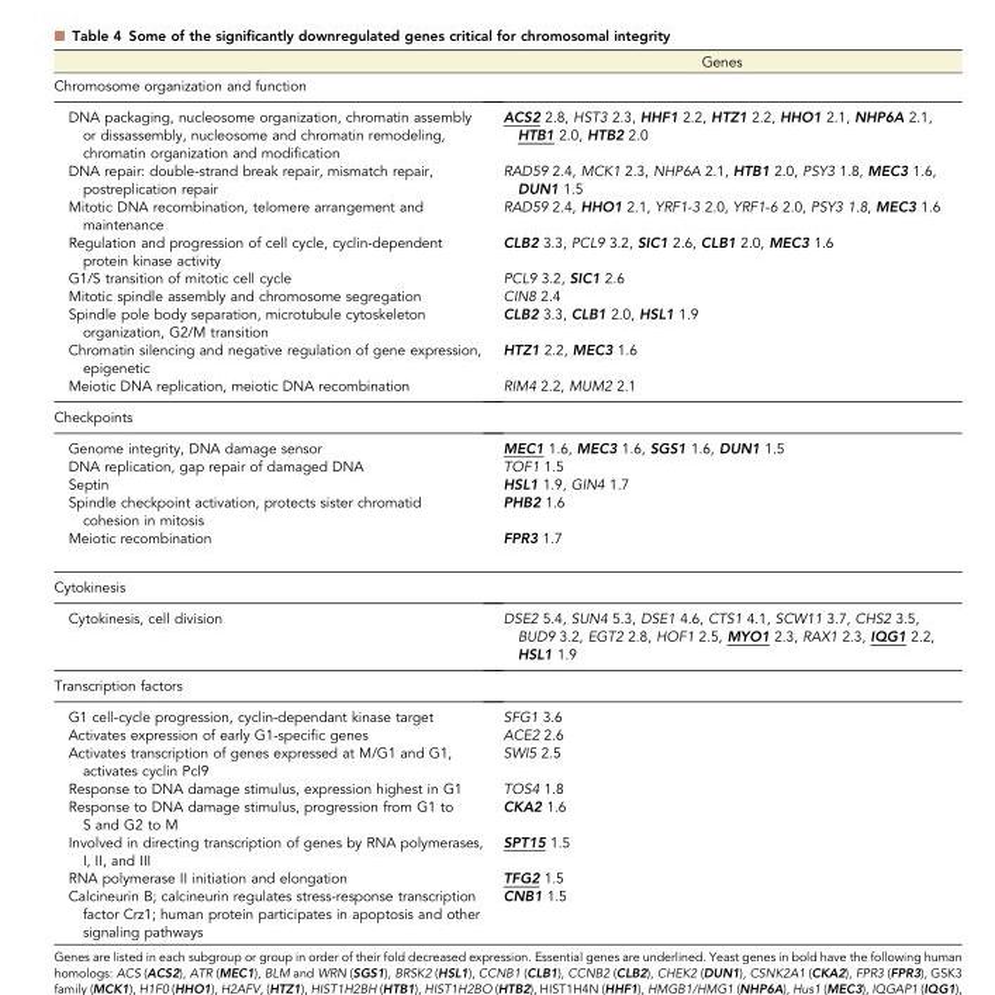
<table><thead><tr><td></td><td>Genes</td></tr></thead><tbody><tr><td colspan="2">Chromosome organization and function</td></tr><tr><td>DNA packaging, nucleosome organization, chromatin assembly or dissassembly, nucleosome and chromatin remodeling, chromatin organization and modification</td><td>ACS2 2.8, HST3 2.3, HHF1 2.2, HTZ1 2.2, HHO1 2.1, NHP6A 2.1, HTB1 2.0, HTB2 2.0</td></tr><tr><td>DNA repair: double-strand break repair, mismatch repair, postreplication repair</td><td>RAD59 2.4, MCK1 2.3, NHP6A 2.1, HTB1 2.0, PSY3 1.8, MEC3 1.6, DUN1 1.5</td></tr><tr><td>Mitotic DNA recombination, telomere arrangement and maintenance</td><td>RAD59 2.4, HHO1 2.1, YRF1-3 2.0, YRF1-6 2.0, PSY3 1.8, MEC3 1.6</td></tr><tr><td>Regulation and progression of cell cycle, cyclin-dependent protein kinase activity</td><td>CLB2 3.3, PCL9 3.2, SIC1 2.6, CLB1 2.0, MEC3 1.6</td></tr><tr><td>G1/S transition of mitotic cell cycle</td><td>PCL9 3.2, SIC1 2.6</td></tr><tr><td>Mitotic spindle assembly and chromosome segregation</td><td>CIN8 2.4</td></tr><tr><td>Spindle pole body separation, microtubule cytoskeleton organization, G2/M transition</td><td>CLB2 3.3, CLB1 2.0, HSL1 1.9</td></tr><tr><td>Chromatin silencing and negative regulation of gene expression, epigenetic</td><td>HTZ1 2.2, MEC3 1.6</td></tr><tr><td>Meiotic DNA replication, meiotic DNA recombination</td><td>RIM4 2.2, MUM2 2.1</td></tr><tr><td colspan="2">Checkpoints</td></tr><tr><td>Genome integrity, DNA damage sensor</td><td>MEC1 1.6, MEC3 1.6, SGS1 1.6, DUN1 1.5</td></tr><tr><td>DNA replication, gap repair of damaged DNA</td><td>TOF1 1.5</td></tr><tr><td>Septin</td><td>HSL1 1.9, GIN4 1.7</td></tr><tr><td>Spindle checkpoint activation, protects sister chromatid cohesion in mitosis</td><td>PHB2 1.6</td></tr><tr><td>Meiotic recombination</td><td>FPR3 1.7</td></tr><tr><td colspan="2">Cytokinesis</td></tr><tr><td>Cytokinesis, cell division</td><td>DSE2 5.4, SUN4 5.3, DSE1 4.6, CTS1 4.1, SCW11 3.7, CHS2 3.5, BUD9 3.2, EGT2 2.8, HOF1 2.5, MYO1 2.3, RAX1 2.3, IQG1 2.2, HSL1 1.9</td></tr><tr><td colspan="2">Transcription factors</td></tr><tr><td>G1 cell-cycle progression, cyclin-dependant kinase target</td><td>SFG1 3.6</td></tr><tr><td>Activates expression of early G1-specific genes</td><td>ACE2 2.6</td></tr><tr><td>Activates transcription of genes expressed at M/G1 and G1, activates cyclin Pcl9</td><td>SWI5 2.5</td></tr><tr><td>Response to DNA damage stimulus, expression highest in G1</td><td>TOS4 1.8</td></tr><tr><td>Response to DNA damage stimulus, progression from G1 to S and G2 to M</td><td>CKA2 1.6</td></tr><tr><td>Involved in directing transcription of genes by RNA polymerases, I, II, and III</td><td>SPT15 1.5</td></tr><tr><td>RNA polymerase II initiation and elongation</td><td>TFG2 1.5</td></tr><tr><td>Calcineurin B; calcineurin regulates stress-response transcription factor Crz1; human protein participates in apoptosis and other signaling pathways</td><td>CNB1 1.5</td></tr></tbody></table>